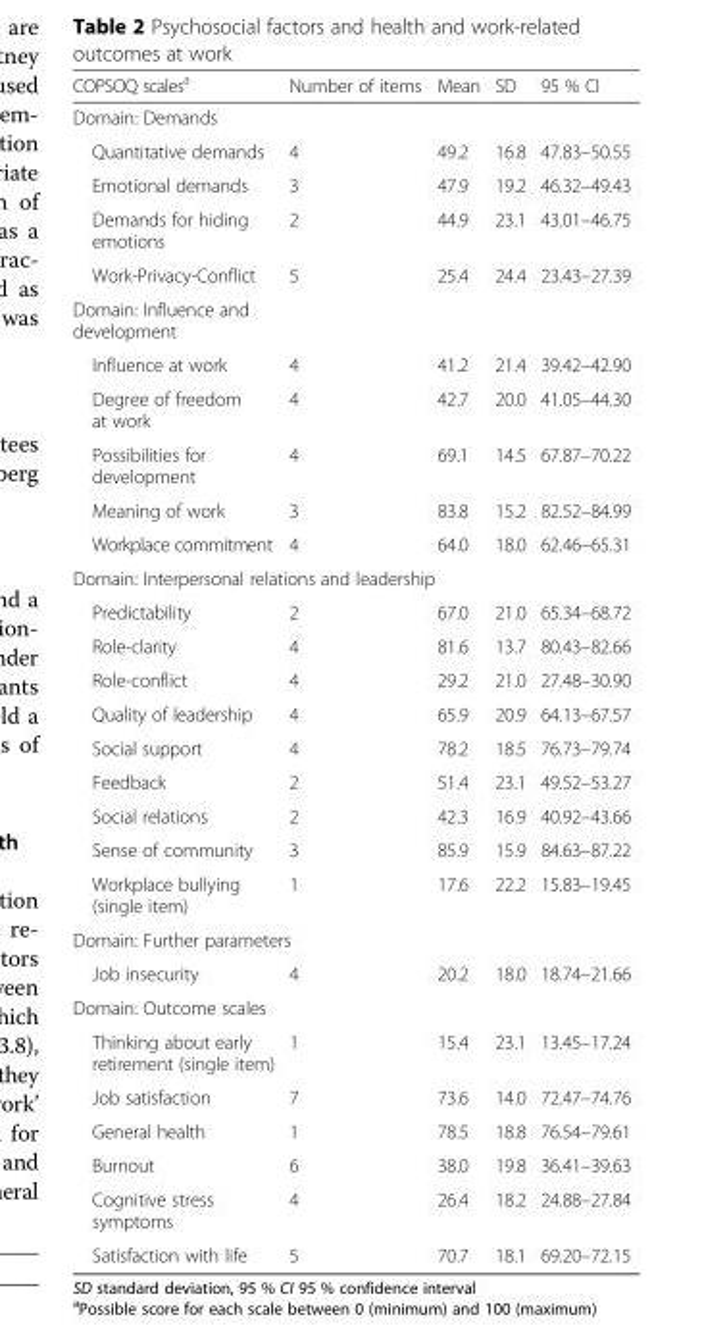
<table><thead><tr><td>COPSOQ scales<sup>a</sup></td><td>Number of items</td><td>Mean</td><td>SD</td><td>95 % CI</td></tr></thead><tbody><tr><td colspan="5">Domain: Demands</td></tr><tr><td>Quantitative demands</td><td>4</td><td>49.2</td><td>16.8</td><td>47.83–50.55</td></tr><tr><td>Emotional demands</td><td>3</td><td>47.9</td><td>19.2</td><td>46.32–49.43</td></tr><tr><td>Demands for hiding emotions</td><td>2</td><td>44.9</td><td>23.1</td><td>43.01–46.75</td></tr><tr><td>Work-Privacy-Conflict</td><td>5</td><td>25.4</td><td>24.4</td><td>23.43–27.39</td></tr><tr><td colspan="5">Domain: Influence and development</td></tr><tr><td>Influence at work</td><td>4</td><td>41.2</td><td>21.4</td><td>39.42–42.90</td></tr><tr><td>Degree of freedom at work</td><td>4</td><td>42.7</td><td>20.0</td><td>41.05–44.30</td></tr><tr><td>Possibilities for development</td><td>4</td><td>69.1</td><td>14.5</td><td>67.87–70.22</td></tr><tr><td>Meaning of work</td><td>3</td><td>83.8</td><td>15.2</td><td>82.52–84.99</td></tr><tr><td>Workplace commitment</td><td>4</td><td>64.0</td><td>18.0</td><td>62.46–65.31</td></tr><tr><td colspan="5">Domain: Interpersonal relations and leadership</td></tr><tr><td>Predictability</td><td>2</td><td>67.0</td><td>21.0</td><td>65.34–68.72</td></tr><tr><td>Role-clarity</td><td>4</td><td>81.6</td><td>13.7</td><td>80.43–82.66</td></tr><tr><td>Role-conflict</td><td>4</td><td>29.2</td><td>21.0</td><td>27.48–30.90</td></tr><tr><td>Quality of leadership</td><td>4</td><td>65.9</td><td>20.9</td><td>64.13–67.57</td></tr><tr><td>Social support</td><td>4</td><td>78.2</td><td>18.5</td><td>76.73–79.74</td></tr><tr><td>Feedback</td><td>2</td><td>51.4</td><td>23.1</td><td>49.52–53.27</td></tr><tr><td>Social relations</td><td>2</td><td>42.3</td><td>16.9</td><td>40.92–43.66</td></tr><tr><td>Sense of community</td><td>3</td><td>85.9</td><td>15.9</td><td>84.63–87.22</td></tr><tr><td>Workplace bullying (single item)</td><td>1</td><td>17.6</td><td>22.2</td><td>15.83–19.45</td></tr><tr><td colspan="5">Domain: Further parameters</td></tr><tr><td>Job insecurity</td><td>4</td><td>20.2</td><td>18.0</td><td>18.74–21.66</td></tr><tr><td colspan="5">Domain: Outcome scales</td></tr><tr><td>Thinking about early retirement (single item)</td><td>1</td><td>15.4</td><td>23.1</td><td>13.45–17.24</td></tr><tr><td>Job satisfaction</td><td>7</td><td>73.6</td><td>14.0</td><td>72.47–74.76</td></tr><tr><td>General health</td><td>1</td><td>78.5</td><td>18.8</td><td>76.54–79.61</td></tr><tr><td>Burnout</td><td>6</td><td>38.0</td><td>19.8</td><td>36.41–39.63</td></tr><tr><td>Cognitive stress symptoms</td><td>4</td><td>26.4</td><td>18.2</td><td>24.88–27.84</td></tr><tr><td>Satisfaction with life</td><td>5</td><td>70.7</td><td>18.1</td><td>69.20–72.15</td></tr></tbody></table>